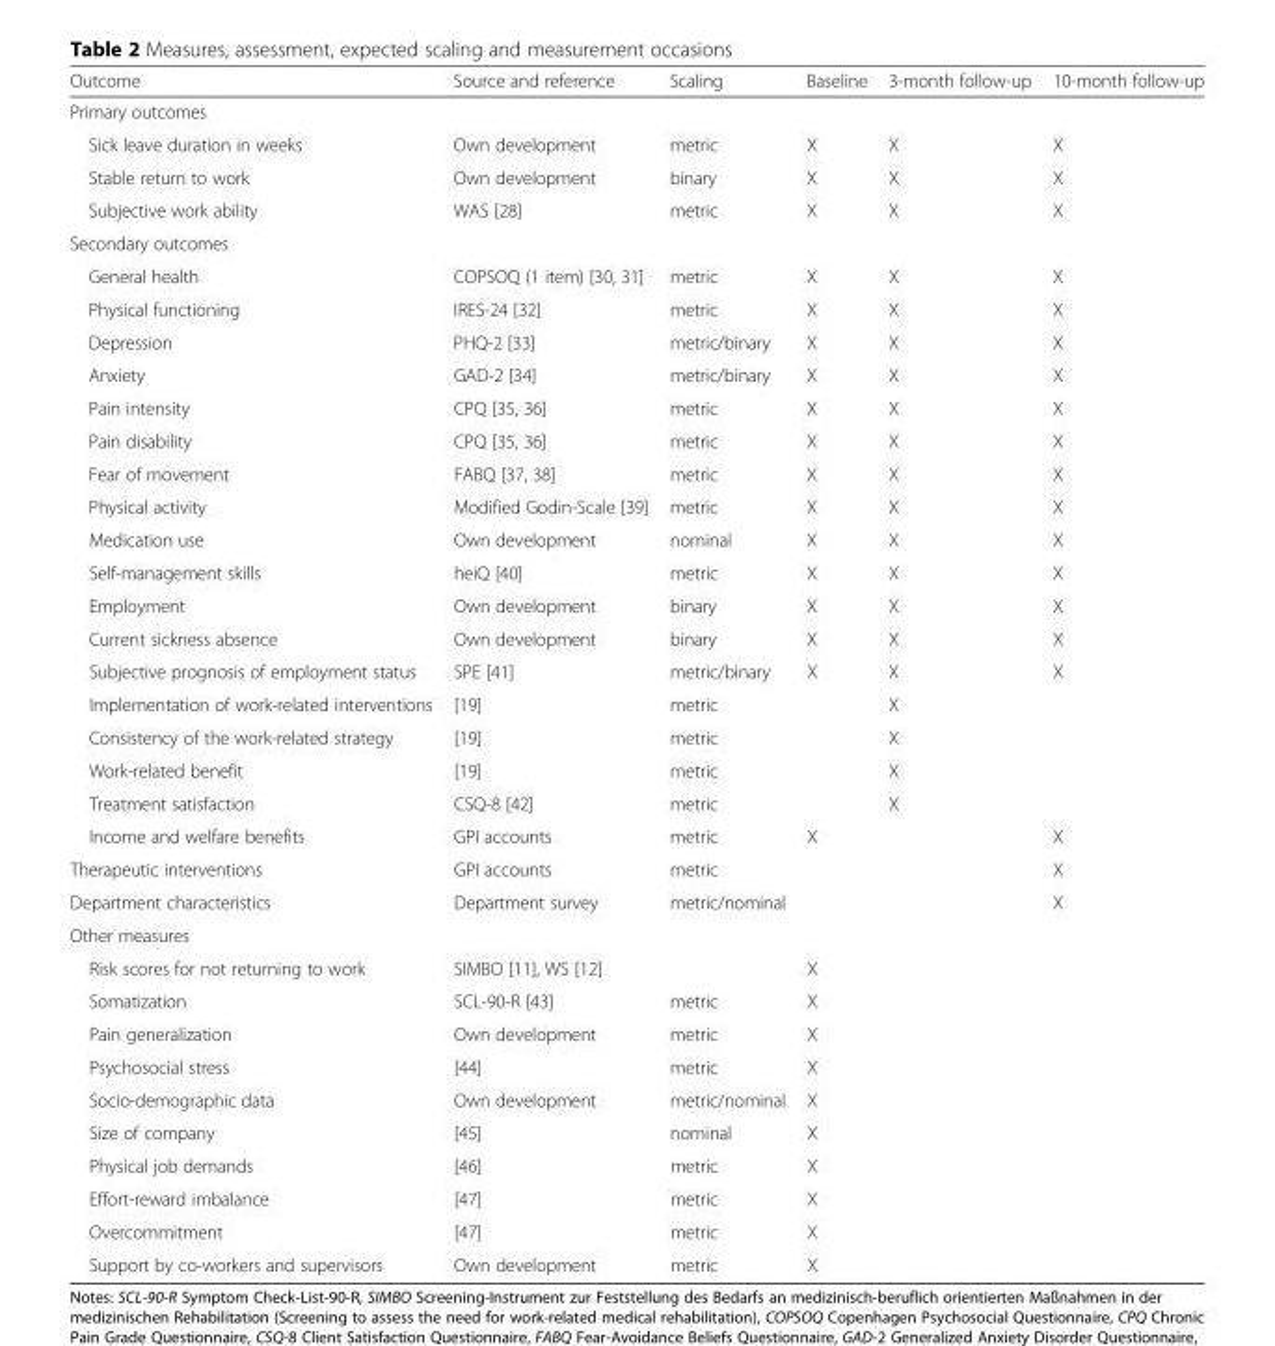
<table><thead><tr><td>Outcome</td><td>Source and reference</td><td>Scaling</td><td>Baseline</td><td>3-month follow-up</td><td>10-month follow-up</td></tr></thead><tbody><tr><td colspan="6">Primary outcomes</td></tr><tr><td>Sick leave duration in weeks</td><td>Own development</td><td>metric</td><td>X</td><td>X</td><td>X</td></tr><tr><td>Stable return to work</td><td>Own development</td><td>binary</td><td>X</td><td>X</td><td>X</td></tr><tr><td>Subjective work ability</td><td>WAS [28]</td><td>metric</td><td>X</td><td>X</td><td>X</td></tr><tr><td colspan="6">Secondary outcomes</td></tr><tr><td>General health</td><td>COPSOQ (1 item) [30, 31]</td><td>metric</td><td>X</td><td>X</td><td>X</td></tr><tr><td>Physical functioning</td><td>IRES-24 [32]</td><td>metric</td><td>X</td><td>X</td><td>X</td></tr><tr><td>Depression</td><td>PHQ-2 [33]</td><td>metric/binary</td><td>X</td><td>X</td><td>X</td></tr><tr><td>Anxiety</td><td>GAD-2 [34]</td><td>metric/binary</td><td>X</td><td>X</td><td>X</td></tr><tr><td>Pain intensity</td><td>CPQ [35, 36]</td><td>metric</td><td>X</td><td>X</td><td>X</td></tr><tr><td>Pain disability</td><td>CPQ [35, 36]</td><td>metric</td><td>X</td><td>X</td><td>X</td></tr><tr><td>Fear of movement</td><td>FABQ [37, 38]</td><td>metric</td><td>X</td><td>X</td><td>X</td></tr><tr><td>Physical activity</td><td>Modified Godin-Scale [39]</td><td>metric</td><td>X</td><td>X</td><td>X</td></tr><tr><td>Medication use</td><td>Own development</td><td>nominal</td><td>X</td><td>X</td><td>X</td></tr><tr><td>Self-management skills</td><td>heiQ [40]</td><td>metric</td><td>X</td><td>X</td><td>X</td></tr><tr><td>Employment</td><td>Own development</td><td>binary</td><td>X</td><td>X</td><td>X</td></tr><tr><td>Current sickness absence</td><td>Own development</td><td>binary</td><td>X</td><td>X</td><td>X</td></tr><tr><td>Subjective prognosis of employment status</td><td>SPE [41]</td><td>metric/binary</td><td>X</td><td>X</td><td>X</td></tr><tr><td>Implementation of work-related interventions</td><td>[19]</td><td>metric</td><td></td><td>X</td><td></td></tr><tr><td>Consistency of the work-related strategy</td><td>[19]</td><td>metric</td><td></td><td>X</td><td></td></tr><tr><td>Work-related benefit</td><td>[19]</td><td>metric</td><td></td><td>X</td><td></td></tr><tr><td>Treatment satisfaction</td><td>CSQ-8 [42]</td><td>metric</td><td></td><td>X</td><td></td></tr><tr><td>Income and welfare benefits</td><td>GPI accounts</td><td>metric</td><td>X</td><td></td><td>X</td></tr><tr><td>Therapeutic interventions</td><td>GPI accounts</td><td>metric</td><td></td><td></td><td>X</td></tr><tr><td>Department characteristics</td><td>Department survey</td><td>metric/nominal</td><td></td><td></td><td>X</td></tr><tr><td colspan="6">Other measures</td></tr><tr><td>Risk scores for not returning to work</td><td>SIMBO [11], WS [12]</td><td></td><td>X</td><td></td><td></td></tr><tr><td>Somatization</td><td>SCL-90-R [43]</td><td>metric</td><td>X</td><td></td><td></td></tr><tr><td>Pain generalization</td><td>Own development</td><td>metric</td><td>X</td><td></td><td></td></tr><tr><td>Psychosocial stress</td><td>[44]</td><td>metric</td><td>X</td><td></td><td></td></tr><tr><td>Socio-demographic data</td><td>Own development</td><td>metric/nominal</td><td>X</td><td></td><td></td></tr><tr><td>Size of company</td><td>[45]</td><td>nominal</td><td>X</td><td></td><td></td></tr><tr><td>Physical job demands</td><td>[46]</td><td>metric</td><td>X</td><td></td><td></td></tr><tr><td>Effort-reward imbalance</td><td>[47]</td><td>metric</td><td>X</td><td></td><td></td></tr><tr><td>Overcommitment</td><td>[47]</td><td>metric</td><td>X</td><td></td><td></td></tr><tr><td>Support by co-workers and supervisors</td><td>Own development</td><td>metric</td><td>X</td><td></td><td></td></tr></tbody></table>